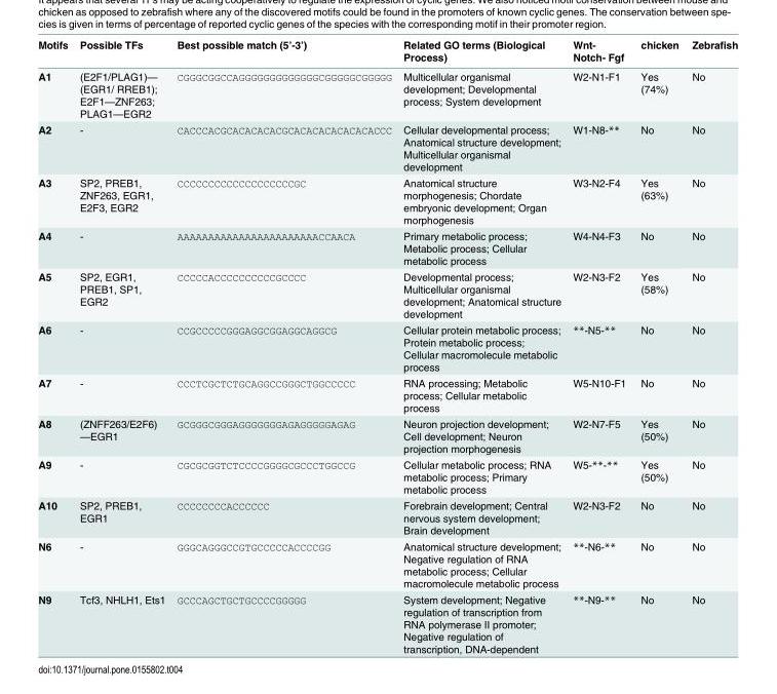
<table><thead><tr><td>Motifs</td><td>Possible TFs</td><td>Best possible match (5’-3’)</td><td>Related GO terms (Biological Process)</td><td>Wnt- Notch- Fgf</td><td>chicken</td><td>Zebrafish</td></tr></thead><tbody><tr><td>A1</td><td>(E2F1/PLAG1)— (EGR1/ RREB1); E2F1—ZNF263; PLAG1—EGR2</td><td>CGGGCGGCCAGGGGGGGGGGGGGCGGGGGCGGGGG</td><td>Multicellular organismal development; Developmental process; System development</td><td>W2-N1-F1</td><td>Yes (74%)</td><td>No</td></tr><tr><td>A2</td><td>-</td><td>CACCCACGCACACACACGCACACACACACACACCC</td><td>Cellular developmental process; Anatomical structure development; Multicellular organismal development</td><td>W1-N8-**</td><td>No</td><td>No</td></tr><tr><td>A3</td><td>SP2, PREB1, ZNF263, EGR1, E2F3, EGR2</td><td>CCCCCCCCCCCCCCCCCCCGC</td><td>Anatomical structure morphogenesis; Chordate embryonic development; Organ morphogenesis</td><td>W3-N2-F4</td><td>Yes (63%)</td><td>No</td></tr><tr><td>A4</td><td>-</td><td>AAAAAAAAAAAAAAAAAAAAAAACCAACA</td><td>Primary metabolic process; Metabolic process; Cellular metabolic process</td><td>W4-N4-F3</td><td>No</td><td>No</td></tr><tr><td>A5</td><td>SP2, EGR1, PREB1, SP1, EGR2</td><td>CCCCCACCCCCCCCCCGCCCC</td><td>Developmental process; Multicellular organismal development; Anatomical structure development</td><td>W2-N3-F2</td><td>Yes (58%)</td><td>No</td></tr><tr><td>A6</td><td>-</td><td>CCGCCCCCGGGAGGCGGAGGCAGGCG</td><td>Cellular protein metabolic process; Protein metabolic process; Cellular macromolecule metabolic process</td><td>**-N5-**</td><td>No</td><td>No</td></tr><tr><td>A7</td><td>-</td><td>CCCTCGCTCTGCAGGCCGGGCTGGCCCCC</td><td>RNA processing; Metabolic process; Cellular metabolic process</td><td>W5-N10-F1</td><td>No</td><td>No</td></tr><tr><td>A8</td><td>(ZNFF263/E2F6) —EGR1</td><td>GCGGGCGGGAGGGGGGGAGAGGGGGAGAG</td><td>Neuron projection development; Cell development; Neuron projection morphogenesis</td><td>W2-N7-F5</td><td>Yes (50%)</td><td>No</td></tr><tr><td>A9</td><td>-</td><td>CGCGCGGTCTCCCCGGGGCGCCCTGGCCG</td><td>Cellular metabolic process; RNA metabolic process; Primary metabolic process</td><td>W5-**-**</td><td>Yes (50%)</td><td>No</td></tr><tr><td>A10</td><td>SP2, PREB1, EGR1</td><td>CCCCCCCCACCCCCC</td><td>Forebrain development; Central nervous system development; Brain development</td><td>W2-N3-F2</td><td>No</td><td>No</td></tr><tr><td>N6</td><td>-</td><td>GGGCAGGGCCGTGCCCCCACCCCGG</td><td>Anatomical structure development; Negative regulation of RNA metabolic process; Cellular macromolecule metabolic process</td><td>**-N6-**</td><td>No</td><td>No</td></tr><tr><td>N9</td><td>Tcf3, NHLH1, Ets1</td><td>GCCCAGCTGCTGCCCCGGGGG</td><td>System development; Negative regulation of transcription from RNA polymerase II promoter; Negative regulation of transcription, DNA-dependent</td><td>**-N9-**</td><td>No</td><td>No</td></tr></tbody></table>